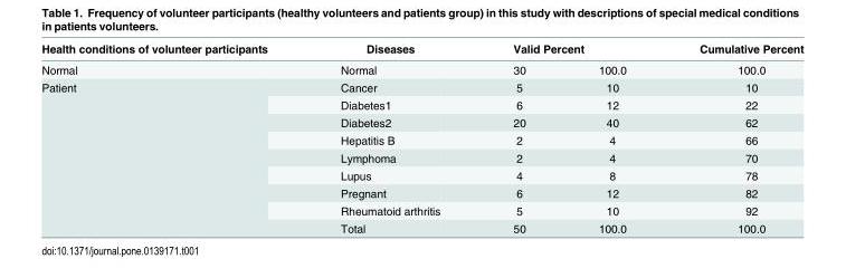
<table><thead><tr><td rowspan="2">Health conditions of volunteer participants Normal</td><td rowspan="2">Diseases Normal</td><td colspan="2">Valid Percent</td><td rowspan="2">Cumulative Percent 100.0</td></tr><tr><td>30</td><td>100.0</td></tr></thead><tbody><tr><td rowspan="9">Patient</td><td>Cancer</td><td>5</td><td>10</td><td>10</td></tr><tr><td>Diabetes1</td><td>6</td><td>12</td><td>22</td></tr><tr><td>Diabetes2</td><td>20</td><td>40</td><td>62</td></tr><tr><td>Hepatitis B</td><td>2</td><td>4</td><td>66</td></tr><tr><td>Lymphoma</td><td>2</td><td>4</td><td>70</td></tr><tr><td>Lupus</td><td>4</td><td>8</td><td>78</td></tr><tr><td>Pregnant</td><td>6</td><td>12</td><td>82</td></tr><tr><td>Rheumatoid arthritis</td><td>5</td><td>10</td><td>92</td></tr><tr><td>Total</td><td>50</td><td>100.0</td><td>100.0</td></tr></tbody></table>